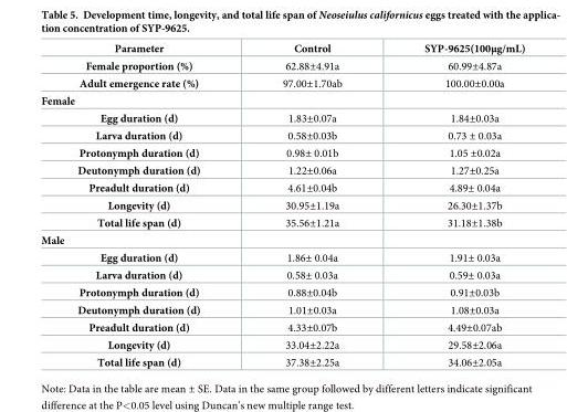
<table><thead><tr><td>Parameter</td><td>Control</td><td>SYP-9625(100μg/mL)</td></tr></thead><tbody><tr><td>Female proportion (%)</td><td>62.88±4.91a</td><td>60.99±4.87a</td></tr><tr><td>Adult emergence rate (%)</td><td>97.00±1.70ab</td><td>100.00±0.00a</td></tr><tr><td colspan="3">Female</td></tr><tr><td>Egg duration (d)</td><td>1.83±0.07a</td><td>1.84±0.03a</td></tr><tr><td>Larva duration (d)</td><td>0.58±0.03b</td><td>0.73 ± 0.03a</td></tr><tr><td>Protonymph duration (d)</td><td>0.98± 0.01b</td><td>1.05 ±0.02a</td></tr><tr><td>Deutonymph duration (d)</td><td>1.22±0.06a</td><td>1.27±0.25a</td></tr><tr><td>Preadult duration (d)</td><td>4.61±0.04b</td><td>4.89± 0.04a</td></tr><tr><td>Longevity (d)</td><td>30.95±1.19a</td><td>26.30±1.37b</td></tr><tr><td>Total life span (d)</td><td>35.56±1.21a</td><td>31.18±1.38b</td></tr><tr><td colspan="3">Male</td></tr><tr><td>Egg duration (d)</td><td>1.86± 0.04a</td><td>1.91± 0.03a</td></tr><tr><td>Larva duration (d)</td><td>0.58± 0.03a</td><td>0.59± 0.03a</td></tr><tr><td>Protonymph duration (d)</td><td>0.88±0.04b</td><td>0.91±0.03b</td></tr><tr><td>Deutonymph duration (d)</td><td>1.01±0.03a</td><td>1.08±0.03a</td></tr><tr><td>Preadult duration (d)</td><td>4.33±0.07b</td><td>4.49±0.07ab</td></tr><tr><td>Longevity (d)</td><td>33.04±2.22a</td><td>29.58±2.06a</td></tr><tr><td>Total life span (d)</td><td>37.38±2.25a</td><td>34.06±2.05a</td></tr></tbody></table>